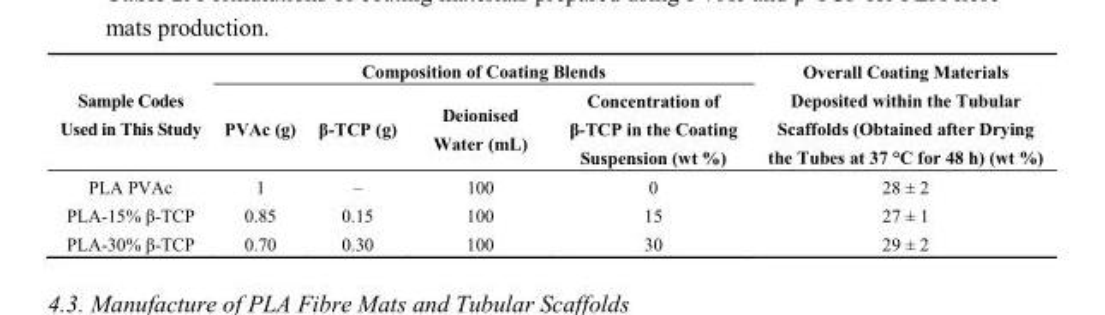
<table><thead><tr><td rowspan="2">Sample Codes Used in This Study</td><td colspan="4">Composition of Coating Blends</td><td rowspan="2">Overall Coating Materials Deposited within the Tubular Scaffolds (Obtained after Drying the Tubes at 37 °C for 48 h) (wt %)</td></tr><tr><td>PVAc (g)</td><td>β-TCP (g)</td><td>Deionised Water (mL)</td><td>Concentration of β-TCP in the Coating Suspension (wt %)</td></tr></thead><tbody><tr><td>PLA PVAc</td><td>1</td><td>–</td><td>100</td><td>0</td><td>28 ± 2</td></tr><tr><td>PLA-15% β-TCP</td><td>0.85</td><td>0.15</td><td>100</td><td>15</td><td>27 ± 1</td></tr><tr><td>PLA-30% β-TCP</td><td>0.70</td><td>0.30</td><td>100</td><td>30</td><td>29 ± 2</td></tr></tbody></table>